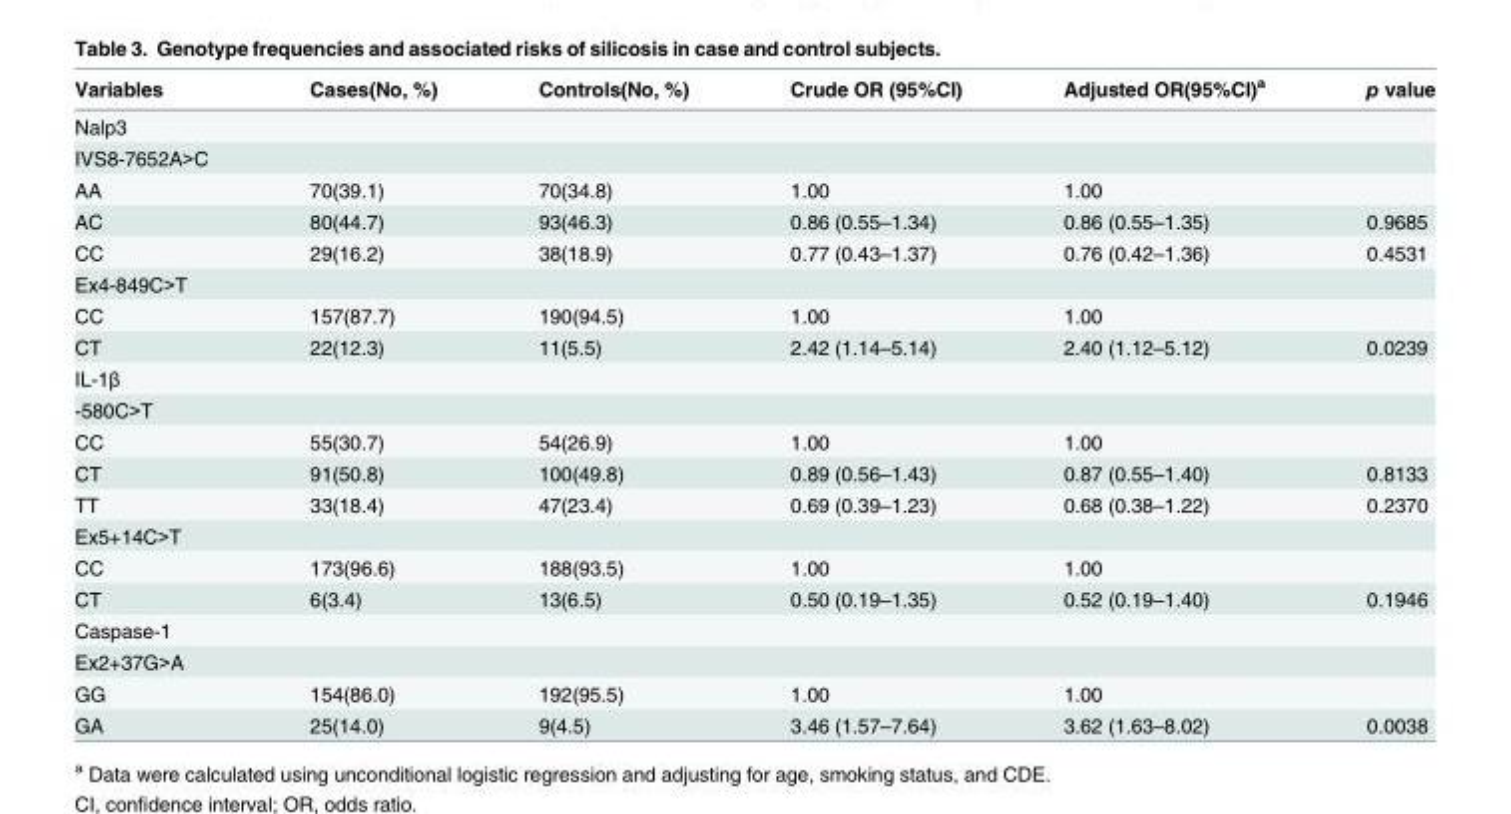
<table><thead><tr><td>Variables</td><td>Cases(No, %)</td><td>Controls(No, %)</td><td>Crude OR (95%CI)</td><td>Adjusted OR(95%CI)<sup>a</sup></td><td>p value</td></tr></thead><tbody><tr><td colspan="6">Nalp3</td></tr><tr><td colspan="6">IVS8-7652A&gt;C</td></tr><tr><td>AA</td><td>70(39.1)</td><td>70(34.8)</td><td>1.00</td><td>1.00</td><td></td></tr><tr><td>AC</td><td>80(44.7)</td><td>93(46.3)</td><td>0.86 (0.55–1.34)</td><td>0.86 (0.55–1.35)</td><td>0.9685</td></tr><tr><td>CC</td><td>29(16.2)</td><td>38(18.9)</td><td>0.77 (0.43–1.37)</td><td>0.76 (0.42–1.36)</td><td>0.4531</td></tr><tr><td colspan="6">Ex4-849C&gt;T</td></tr><tr><td>CC</td><td>157(87.7)</td><td>190(94.5)</td><td>1.00</td><td>1.00</td><td></td></tr><tr><td>CT</td><td>22(12.3)</td><td>11(5.5)</td><td>2.42 (1.14–5.14)</td><td>2.40 (1.12–5.12)</td><td>0.0239</td></tr><tr><td colspan="6">IL-1β</td></tr><tr><td colspan="6">-580C&gt;T</td></tr><tr><td>CC</td><td>55(30.7)</td><td>54(26.9)</td><td>1.00</td><td>1.00</td><td></td></tr><tr><td>CT</td><td>91(50.8)</td><td>100(49.8)</td><td>0.89 (0.56–1.43)</td><td>0.87 (0.55–1.40)</td><td>0.8133</td></tr><tr><td>TT</td><td>33(18.4)</td><td>47(23.4)</td><td>0.69 (0.39–1.23)</td><td>0.68 (0.38–1.22)</td><td>0.2370</td></tr><tr><td colspan="6">Ex5+14C&gt;T</td></tr><tr><td>CC</td><td>173(96.6)</td><td>188(93.5)</td><td>1.00</td><td>1.00</td><td></td></tr><tr><td>CT</td><td>6(3.4)</td><td>13(6.5)</td><td>0.50 (0.19–1.35)</td><td>0.52 (0.19–1.40)</td><td>0.1946</td></tr><tr><td colspan="6">Caspase-1</td></tr><tr><td colspan="6">Ex2+37G&gt;A</td></tr><tr><td>GG</td><td>154(86.0)</td><td>192(95.5)</td><td>1.00</td><td>1.00</td><td></td></tr><tr><td>GA</td><td>25(14.0)</td><td>9(4.5)</td><td>3.46 (1.57–7.64)</td><td>3.62 (1.63–8.02)</td><td>0.0038</td></tr></tbody></table>